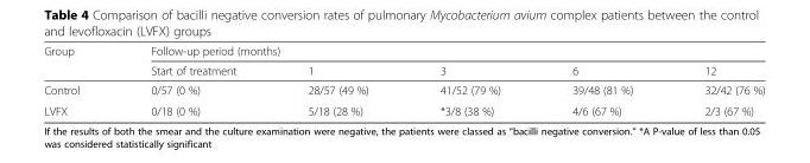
<table><thead><tr><td rowspan="2">Group</td><td colspan="5">Follow-up period (months)</td></tr><tr><td>Start of treatment</td><td>1</td><td>3</td><td>6</td><td>12</td></tr></thead><tbody><tr><td>Control</td><td>0/57 (0 %)</td><td>28/57 (49 %)</td><td>41/52 (79 %)</td><td>39/48 (81 %)</td><td>32/42 (76 %)</td></tr><tr><td>LVFX</td><td>0/18 (0 %)</td><td>5/18 (28 %)</td><td>*3/8 (38 %)</td><td>4/6 (67 %)</td><td>2/3 (67 %)</td></tr></tbody></table>